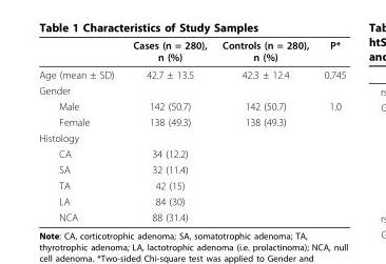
<table><thead><tr><td></td><td>Cases (n = 280), n (%)</td><td>Controls (n = 280), n (%)</td><td>P*</td></tr></thead><tbody><tr><td>Age (mean ± SD)</td><td>42.7 ± 13.5</td><td>42.3 ± 12.4</td><td>0.745</td></tr><tr><td colspan="4">Gender</td></tr><tr><td>Male</td><td>142 (50.7)</td><td>142 (50.7)</td><td>1.0</td></tr><tr><td>Female</td><td>138 (49.3)</td><td>138 (49.3)</td><td></td></tr><tr><td colspan="4">Histology</td></tr><tr><td>CA</td><td>34 (12.2)</td><td></td><td></td></tr><tr><td>SA</td><td>32 (11.4)</td><td></td><td></td></tr><tr><td>TA</td><td>42 (15)</td><td></td><td></td></tr><tr><td>LA</td><td>84 (30)</td><td></td><td></td></tr><tr><td>NCA</td><td>88 (31.4)</td><td></td><td></td></tr></tbody></table>